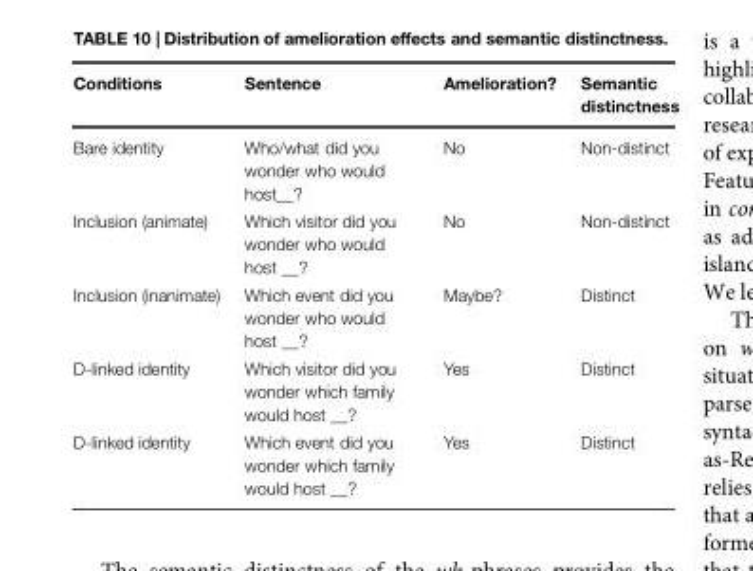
<table><thead><tr><td>Conditions</td><td>Sentence</td><td>Amelioration?</td><td>Semantic distinctness</td></tr></thead><tbody><tr><td>Bare identity</td><td>Who/what did you wonder who would host__?</td><td>No</td><td>Non-distinct</td></tr><tr><td>Inclusion (animate)</td><td>Which visitor did you wonder who would host __?</td><td>No</td><td>Non-distinct</td></tr><tr><td>Inclusion (inanimate)</td><td>Which event did you wonder who would host __?</td><td>Maybe?</td><td>Distinct</td></tr><tr><td>D-linked identity</td><td>Which visitor did you wonder which family would host __?</td><td>Yes</td><td>Distinct</td></tr><tr><td>D-linked identity</td><td>Which event did you wonder which family would host __?</td><td>Yes</td><td>Distinct</td></tr></tbody></table>